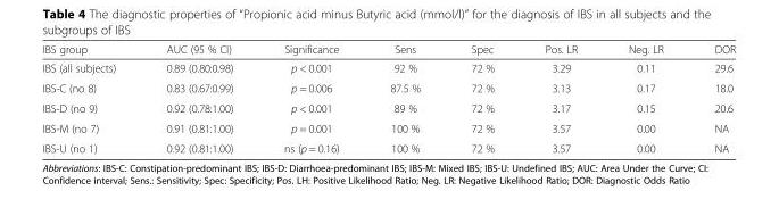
<table><thead><tr><td>IBS group</td><td>AUC (95 % CI)</td><td>Significance</td><td>Sens</td><td>Spec</td><td>Pos. LR</td><td>Neg. LR</td><td>DOR</td></tr></thead><tbody><tr><td>IBS (all subjects)</td><td>0.89 (0.80:0.98)</td><td>p &lt; 0.001</td><td>92 %</td><td>72 %</td><td>3.29</td><td>0.11</td><td>29.6</td></tr><tr><td>IBS-C (no 8)</td><td>0.83 (0.67:0.99)</td><td>p = 0.006</td><td>87.5 %</td><td>72 %</td><td>3.13</td><td>0.17</td><td>18.0</td></tr><tr><td>IBS-D (no 9)</td><td>0.92 (0.78:1.00)</td><td>p &lt; 0.001</td><td>89 %</td><td>72 %</td><td>3.17</td><td>0.15</td><td>20.6</td></tr><tr><td>IBS-M (no 7)</td><td>0.91 (0.81:1.00)</td><td>p = 0.001</td><td>100 %</td><td>72 %</td><td>3.57</td><td>0.00</td><td>NA</td></tr><tr><td>IBS-U (no 1)</td><td>0.92 (0.81:1.00)</td><td>ns (p = 0.16)</td><td>100 %</td><td>72 %</td><td>3.57</td><td>0.00</td><td>NA</td></tr></tbody></table>